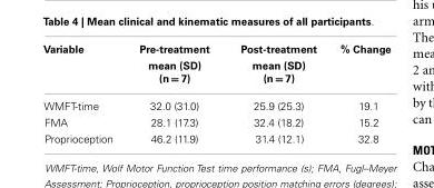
<table><thead><tr><td rowspan="2">Variable</td><td rowspan="2">Pre-treatment mean (SD) (n = 7)</td><td rowspan="2">Post-treatment mean (SD) (n = 7)</td><td rowspan="2">% Change</td></tr><tr></tr></thead><tbody><tr><td>WMFT-time</td><td>32.0 (31.0)</td><td>25.9 (25.3)</td><td>19.1</td></tr><tr><td>FMA</td><td>28.1 (17.3)</td><td>32.4 (18.2)</td><td>15.2</td></tr><tr><td>Proprioception</td><td>46.2 (11.9)</td><td>31.4 (12.1)</td><td>32.8</td></tr></tbody></table>